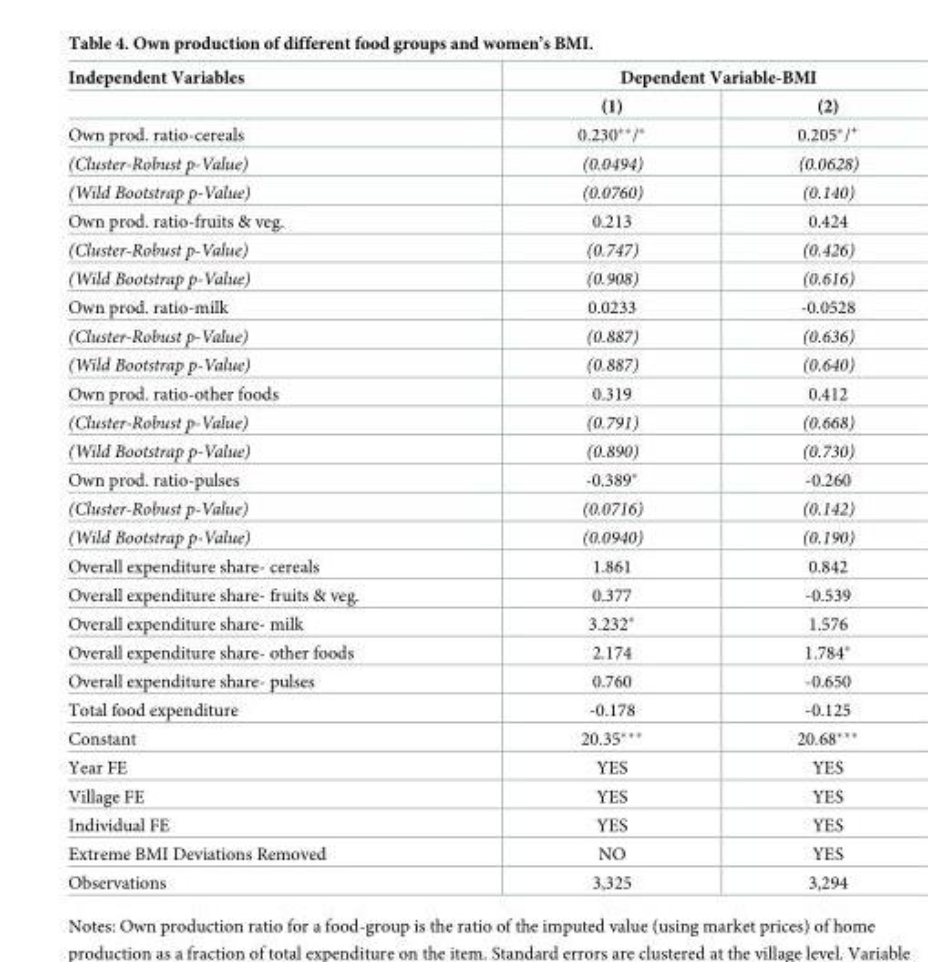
<table><thead><tr><td rowspan="2">Independent Variables</td><td colspan="2">Dependent Variable-BMI</td></tr><tr><td>(1)</td><td>(2)</td></tr></thead><tbody><tr><td>Own prod. ratio-cereals</td><td>0.230**/*</td><td>0.205*/<sup>+</sup></td></tr><tr><td>(Cluster-Robust p-Value)</td><td>(0.0494)</td><td>(0.0628)</td></tr><tr><td>(Wild Bootstrap p-Value)</td><td>(0.0760)</td><td>(0.140)</td></tr><tr><td>Own prod. ratio-fruits &amp; veg.</td><td>0.213</td><td>0.424</td></tr><tr><td>(Cluster-Robust p-Value)</td><td>(0.747)</td><td>(0.426)</td></tr><tr><td>(Wild Bootstrap p-Value)</td><td>(0.908)</td><td>(0.616)</td></tr><tr><td>Own prod. ratio-milk</td><td>0.0233</td><td>-0.0528</td></tr><tr><td>(Cluster-Robust p-Value)</td><td>(0.887)</td><td>(0.636)</td></tr><tr><td>(Wild Bootstrap p-Value)</td><td>(0.887)</td><td>(0.640)</td></tr><tr><td>Own prod. ratio-other foods</td><td>0.319</td><td>0.412</td></tr><tr><td>(Cluster-Robust p-Value)</td><td>(0.791)</td><td>(0.668)</td></tr><tr><td>(Wild Bootstrap p-Value)</td><td>(0.890)</td><td>(0.730)</td></tr><tr><td>Own prod. ratio-pulses</td><td>-0.389*</td><td>-0.260</td></tr><tr><td>(Cluster-Robust p-Value)</td><td>(0.0716)</td><td>(0.142)</td></tr><tr><td>(Wild Bootstrap p-Value)</td><td>(0.0940)</td><td>(0.190)</td></tr><tr><td>Overall expenditure share- cereals</td><td>1.861</td><td>0.842</td></tr><tr><td>Overall expenditure share- fruits &amp; veg.</td><td>0.377</td><td>-0.539</td></tr><tr><td>Overall expenditure share- milk</td><td>3.232*</td><td>1.576</td></tr><tr><td>Overall expenditure share- other foods</td><td>2.174</td><td>1.784*</td></tr><tr><td>Overall expenditure share- pulses</td><td>0.760</td><td>-0.650</td></tr><tr><td>Total food expenditure</td><td>-0.178</td><td>-0.125</td></tr><tr><td>Constant</td><td>20.35***</td><td>20.68***</td></tr><tr><td>Year FE</td><td>YES</td><td>YES</td></tr><tr><td>Village FE</td><td>YES</td><td>YES</td></tr><tr><td>Individual FE</td><td>YES</td><td>YES</td></tr><tr><td>Extreme BMI Deviations Removed</td><td>NO</td><td>YES</td></tr><tr><td>Observations</td><td>3,325</td><td>3,294</td></tr></tbody></table>